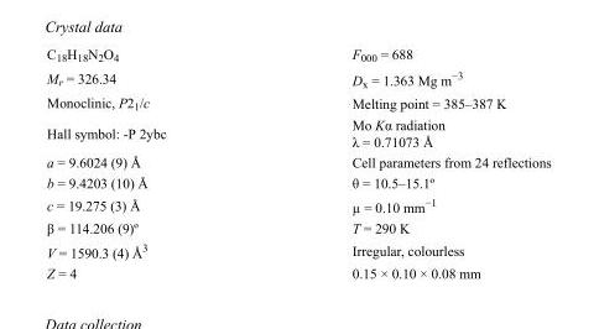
<table><tbody><tr><td>C<sub>18</sub>H<sub>18</sub>N<sub>2</sub>O<sub>4</sub></td><td>F000 = 688</td></tr><tr><td>M<sub>r</sub> = 326.34</td><td>D<sub>x</sub> = 1.363 Mg m<sup>−3</sup></td></tr><tr><td>Monoclinic, P2<sub>1</sub>/c</td><td>Melting point = 385–387 K</td></tr><tr><td>Hall symbol: -P 2ybc</td><td>Mo Kα radiation λ = 0.71073 Å</td></tr><tr><td>a = 9.6024 (9) Å</td><td>Cell parameters from 24 reflections</td></tr><tr><td>b = 9.4203 (10) Å</td><td>θ = 10.5–15.1º</td></tr><tr><td>c = 19.275 (3) Å</td><td>µ = 0.10 mm<sup>−1</sup></td></tr><tr><td>β = 114.206 (9)º</td><td>T = 290 K</td></tr><tr><td>V = 1590.3 (4) Å<sup>3</sup></td><td>Irregular, colourless</td></tr><tr><td>Z = 4</td><td>0.15 × 0.10 × 0.08 mm</td></tr></tbody></table>